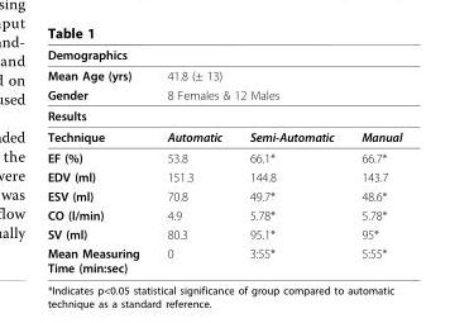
<table><thead><tr><td colspan="4">Demographics</td></tr></thead><tbody><tr><td>Mean Age (yrs)</td><td colspan="3">41.8 (± 13)</td></tr><tr><td>Gender</td><td colspan="3">8 Females &amp; 12 Males</td></tr><tr><td colspan="4">Results</td></tr><tr><td>Technique</td><td>Automatic</td><td>Semi-Automatic</td><td>Manual</td></tr><tr><td>EF (%)</td><td>53.8</td><td>66.1*</td><td>66.7*</td></tr><tr><td>EDV (ml)</td><td>151.3</td><td>144.8</td><td>143.7</td></tr><tr><td>ESV (ml)</td><td>70.8</td><td>49.7*</td><td>48.6*</td></tr><tr><td>CO (l/min)</td><td>4.9</td><td>5.78*</td><td>5.78*</td></tr><tr><td>SV (ml)</td><td>80.3</td><td>95.1*</td><td>95*</td></tr><tr><td>Mean Measuring Time (min:sec)</td><td>0</td><td>3:55*</td><td>5:55*</td></tr></tbody></table>